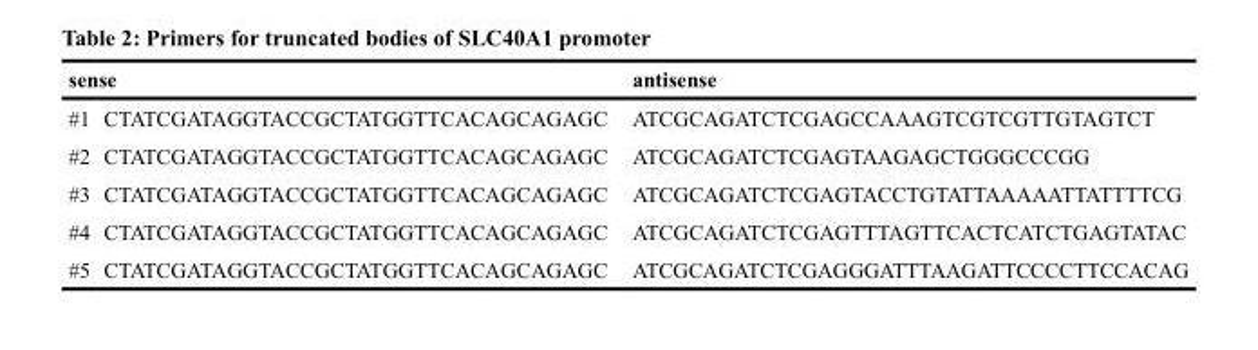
<table><thead><tr><td colspan="2">sense</td><td rowspan="2">antisense ATCGCAGATCTCGAGCCAAAGTCGTCGTTGTAGTCT</td></tr><tr><td>#1</td><td>CTATCGATAGGTACCGCTATGGTTCACAGCAGAGC</td></tr></thead><tbody><tr><td>#2</td><td>CTATCGATAGGTACCGCTATGGTTCACAGCAGAGC</td><td>ATCGCAGATCTCGAGTAAGAGCTGGGCCCGG</td></tr><tr><td>#3</td><td>CTATCGATAGGTACCGCTATGGTTCACAGCAGAGC</td><td>ATCGCAGATCTCGAGTACCTGTATTAAAAATTATTTTCG</td></tr><tr><td>#4</td><td>CTATCGATAGGTACCGCTATGGTTCACAGCAGAGC</td><td>ATCGCAGATCTCGAGTTTAGTTCACTCATCTGAGTATAC</td></tr><tr><td>#5</td><td>CTATCGATAGGTACCGCTATGGTTCACAGCAGAGC</td><td>ATCGCAGATCTCGAGGGATTTAAGATTCCCCTTCCACAG</td></tr></tbody></table>